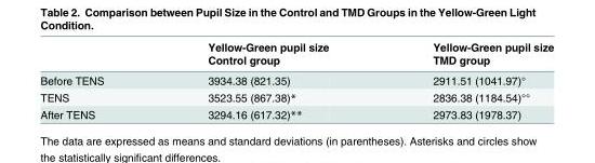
<table><thead><tr><td rowspan="2"></td><td rowspan="2">Yellow-Green pupil size Control group</td><td rowspan="2">Yellow-Green pupil size TMD group</td></tr><tr></tr></thead><tbody><tr><td>Before TENS</td><td>3934.38 (821.35)</td><td>2911.51 (1041.97)°</td></tr><tr><td>TENS</td><td>3523.55 (867.38)*</td><td>2836.38 (1184.54)°°</td></tr><tr><td>After TENS</td><td>3294.16 (617.32)**</td><td>2973.83 (1978.37)</td></tr></tbody></table>